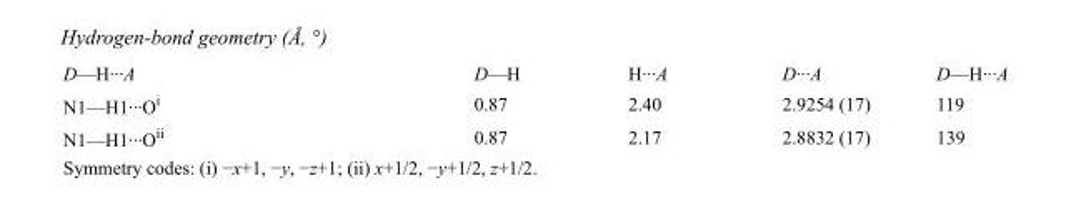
<table><tbody><tr><td>D—H···A</td><td>D—H</td><td>H···A</td><td>D···A</td><td>D—H···A</td></tr><tr><td>N1—H1···O<sup>i</sup></td><td>0.87</td><td>2.40</td><td>2.9254 (17)</td><td>119</td></tr><tr><td>N1—H1···O<sup>ii</sup></td><td>0.87</td><td>2.17</td><td>2.8832 (17)</td><td>139</td></tr></tbody></table>